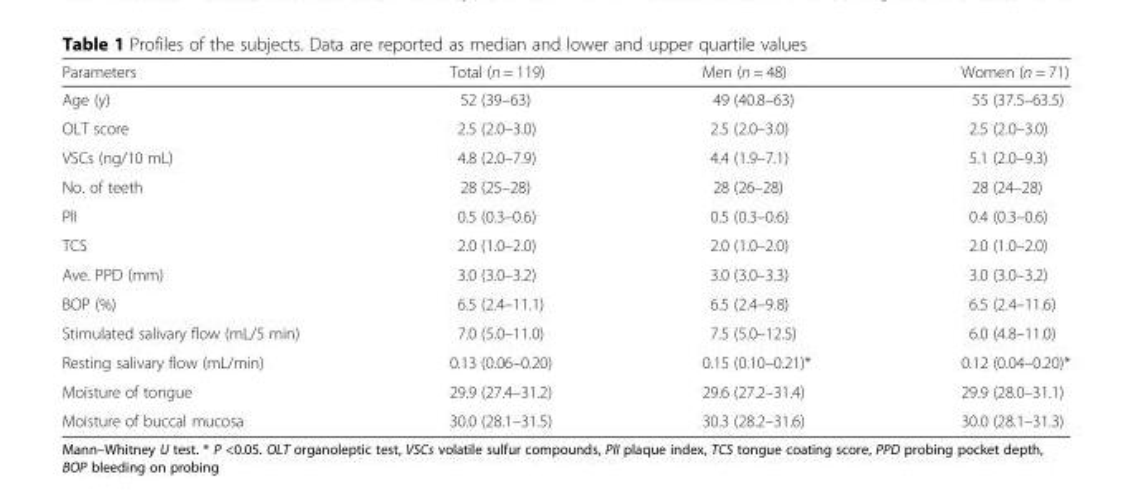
<table><thead><tr><td>Parameters</td><td>Total (n = 119)</td><td>Men (n = 48)</td><td>Women (n = 71)</td></tr></thead><tbody><tr><td>Age (y)</td><td>52 (39–63)</td><td>49 (40.8–63)</td><td>55 (37.5–63.5)</td></tr><tr><td>OLT score</td><td>2.5 (2.0–3.0)</td><td>2.5 (2.0–3.0)</td><td>2.5 (2.0–3.0)</td></tr><tr><td>VSCs (ng/10 mL)</td><td>4.8 (2.0–7.9)</td><td>4.4 (1.9–7.1)</td><td>5.1 (2.0–9.3)</td></tr><tr><td>No. of teeth</td><td>28 (25–28)</td><td>28 (26–28)</td><td>28 (24–28)</td></tr><tr><td>PlI</td><td>0.5 (0.3–0.6)</td><td>0.5 (0.3–0.6)</td><td>0.4 (0.3–0.6)</td></tr><tr><td>TCS</td><td>2.0 (1.0–2.0)</td><td>2.0 (1.0–2.0)</td><td>2.0 (1.0–2.0)</td></tr><tr><td>Ave. PPD (mm)</td><td>3.0 (3.0–3.2)</td><td>3.0 (3.0–3.3)</td><td>3.0 (3.0–3.2)</td></tr><tr><td>BOP (%)</td><td>6.5 (2.4–11.1)</td><td>6.5 (2.4–9.8)</td><td>6.5 (2.4–11.6)</td></tr><tr><td>Stimulated salivary flow (mL/5 min)</td><td>7.0 (5.0–11.0)</td><td>7.5 (5.0–12.5)</td><td>6.0 (4.8–11.0)</td></tr><tr><td>Resting salivary flow (mL/min)</td><td>0.13 (0.06–0.20)</td><td>0.15 (0.10–0.21)*</td><td>0.12 (0.04–0.20)*</td></tr><tr><td>Moisture of tongue</td><td>29.9 (27.4–31.2)</td><td>29.6 (27.2–31.4)</td><td>29.9 (28.0–31.1)</td></tr><tr><td>Moisture of buccal mucosa</td><td>30.0 (28.1–31.5)</td><td>30.3 (28.2–31.6)</td><td>30.0 (28.1–31.3)</td></tr></tbody></table>